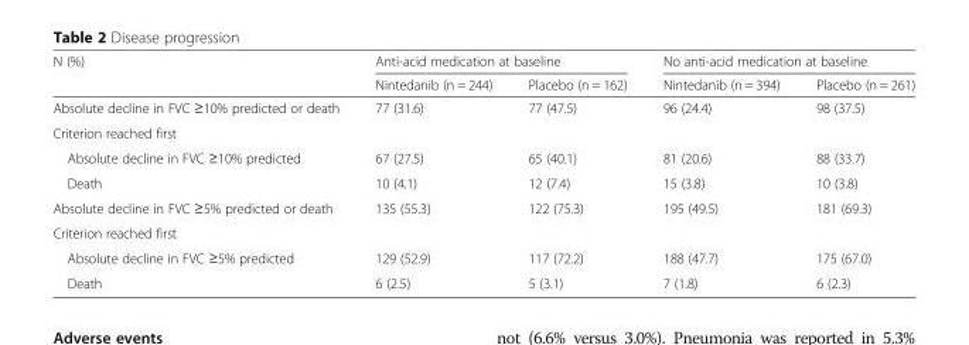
<table><thead><tr><td rowspan="2">N (%)</td><td colspan="2">Anti-acid medication at baseline</td><td colspan="2">No anti-acid medication at baseline</td></tr><tr><td>Nintedanib (n = 244)</td><td>Placebo (n = 162)</td><td>Nintedanib (n = 394)</td><td>Placebo (n = 261)</td></tr></thead><tbody><tr><td>Absolute decline in FVC ≥10% predicted or death</td><td>77 (31.6)</td><td>77 (47.5)</td><td>96 (24.4)</td><td>98 (37.5)</td></tr><tr><td colspan="5">Criterion reached first</td></tr><tr><td>Absolute decline in FVC ≥10% predicted</td><td>67 (27.5)</td><td>65 (40.1)</td><td>81 (20.6)</td><td>88 (33.7)</td></tr><tr><td>Death</td><td>10 (4.1)</td><td>12 (7.4)</td><td>15 (3.8)</td><td>10 (3.8)</td></tr><tr><td>Absolute decline in FVC ≥5% predicted or death</td><td>135 (55.3)</td><td>122 (75.3)</td><td>195 (49.5)</td><td>181 (69.3)</td></tr><tr><td colspan="5">Criterion reached first</td></tr><tr><td>Absolute decline in FVC ≥5% predicted</td><td>129 (52.9)</td><td>117 (72.2)</td><td>188 (47.7)</td><td>175 (67.0)</td></tr><tr><td>Death</td><td>6 (2.5)</td><td>5 (3.1)</td><td>7 (1.8)</td><td>6 (2.3)</td></tr></tbody></table>